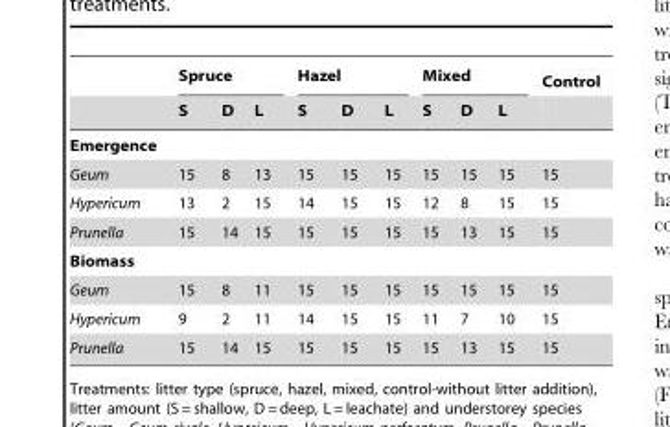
<table><thead><tr><td rowspan="2"></td><td colspan="3">Spruce</td><td colspan="3">Hazel</td><td colspan="3">Mixed</td><td rowspan="2">Control</td></tr><tr><td>S</td><td>D</td><td>L</td><td>S</td><td>D</td><td>L</td><td>S</td><td>D</td><td>L</td></tr></thead><tbody><tr><td colspan="11">Emergence</td></tr><tr><td>Geum</td><td>15</td><td>8</td><td>13</td><td>15</td><td>15</td><td>15</td><td>15</td><td>15</td><td>15</td><td>15</td></tr><tr><td>Hypericum</td><td>13</td><td>2</td><td>15</td><td>14</td><td>15</td><td>15</td><td>12</td><td>8</td><td>15</td><td>15</td></tr><tr><td>Prunella</td><td>15</td><td>14</td><td>15</td><td>15</td><td>15</td><td>15</td><td>15</td><td>13</td><td>15</td><td>15</td></tr><tr><td colspan="11">Biomass</td></tr><tr><td>Geum</td><td>15</td><td>8</td><td>11</td><td>15</td><td>15</td><td>15</td><td>15</td><td>15</td><td>15</td><td>15</td></tr><tr><td>Hypericum</td><td>9</td><td>2</td><td>11</td><td>14</td><td>15</td><td>15</td><td>11</td><td>7</td><td>10</td><td>15</td></tr><tr><td>Prunella</td><td>15</td><td>14</td><td>15</td><td>15</td><td>15</td><td>15</td><td>15</td><td>13</td><td>15</td><td>15</td></tr></tbody></table>